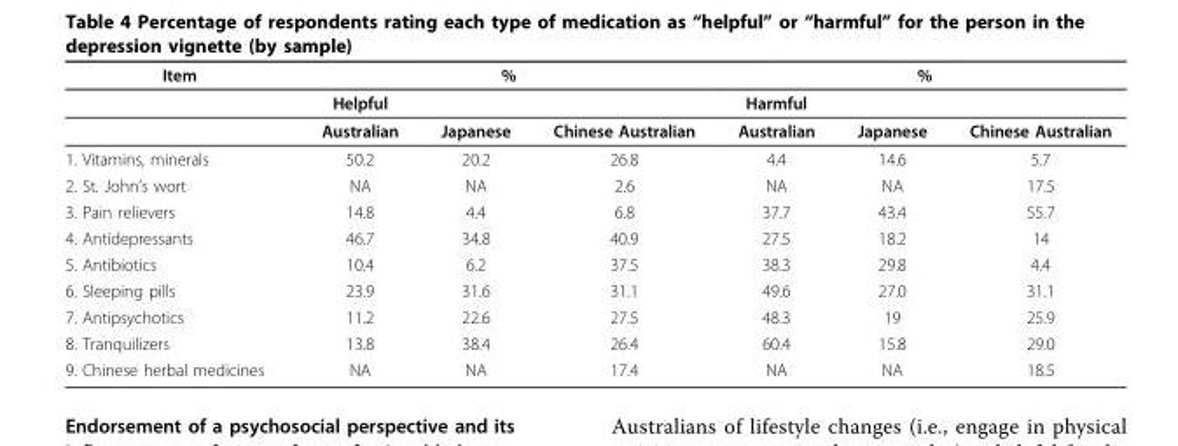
<table><thead><tr><td rowspan="2">Item</td><td colspan="3">%</td><td colspan="3">%</td></tr><tr><td>Helpful</td><td></td><td></td><td>Harmful</td><td></td><td></td></tr></thead><tbody><tr><td></td><td>Australian</td><td>Japanese</td><td>Chinese Australian</td><td>Australian</td><td>Japanese</td><td>Chinese Australian</td></tr><tr><td>1. Vitamins, minerals</td><td>50.2</td><td>20.2</td><td>26.8</td><td>4.4</td><td>14.6</td><td>5.7</td></tr><tr><td>2. St. John’s wort</td><td>NA</td><td>NA</td><td>2.6</td><td>NA</td><td>NA</td><td>17.5</td></tr><tr><td>3. Pain relievers</td><td>14.8</td><td>4.4</td><td>6.8</td><td>37.7</td><td>43.4</td><td>55.7</td></tr><tr><td>4. Antidepressants</td><td>46.7</td><td>34.8</td><td>40.9</td><td>27.5</td><td>18.2</td><td>14</td></tr><tr><td>5. Antibiotics</td><td>10.4</td><td>6.2</td><td>37.5</td><td>38.3</td><td>29.8</td><td>4.4</td></tr><tr><td>6. Sleeping pills</td><td>23.9</td><td>31.6</td><td>31.1</td><td>49.6</td><td>27.0</td><td>31.1</td></tr><tr><td>7. Antipsychotics</td><td>11.2</td><td>22.6</td><td>27.5</td><td>48.3</td><td>19</td><td>25.9</td></tr><tr><td>8. Tranquilizers</td><td>13.8</td><td>38.4</td><td>26.4</td><td>60.4</td><td>15.8</td><td>29.0</td></tr><tr><td>9. Chinese herbal medicines</td><td>NA</td><td>NA</td><td>17.4</td><td>NA</td><td>NA</td><td>18.5</td></tr></tbody></table>